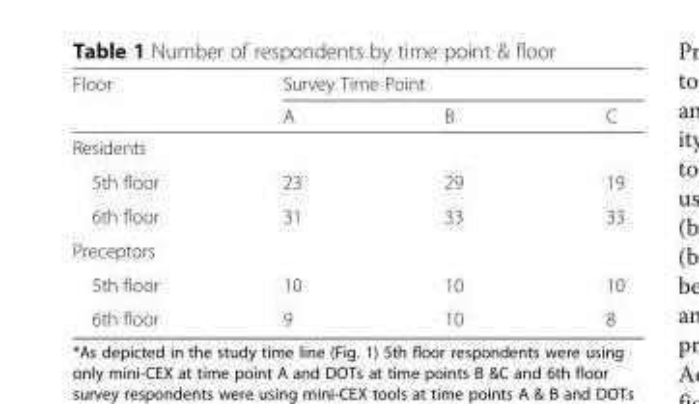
<table><thead><tr><td rowspan="2">Floor</td><td colspan="3">Survey Time Point</td></tr><tr><td>A</td><td>B</td><td>C</td></tr></thead><tbody><tr><td colspan="4">Residents</td></tr><tr><td>5th floor</td><td>23</td><td>29</td><td>19</td></tr><tr><td>6th floor</td><td>31</td><td>33</td><td>33</td></tr><tr><td colspan="4">Preceptors</td></tr><tr><td>5th floor</td><td>10</td><td>10</td><td>10</td></tr><tr><td>6th floor</td><td>9</td><td>10</td><td>8</td></tr></tbody></table>